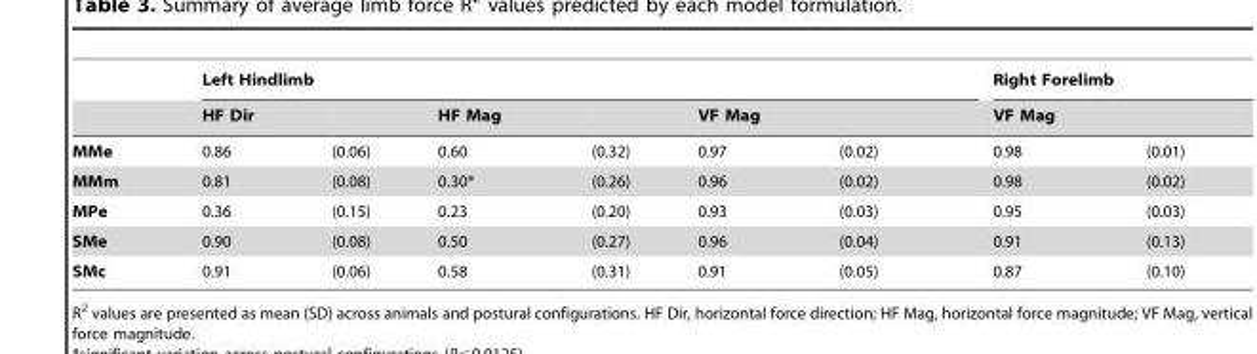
<table><thead><tr><td rowspan="2"></td><td colspan="6">Left Hindlimb</td><td colspan="2">Right Forelimb</td></tr><tr><td>HF Dir</td><td></td><td>HF Mag</td><td></td><td>VF Mag</td><td></td><td>VF Mag</td><td></td></tr></thead><tbody><tr><td>MMe</td><td>0.86</td><td>(0.06)</td><td>0.60</td><td>(0.32)</td><td>0.97</td><td>(0.02)</td><td>0.98</td><td>(0.01)</td></tr><tr><td>MMm</td><td>0.81</td><td>(0.08)</td><td>0.30*</td><td>(0.26)</td><td>0.96</td><td>(0.02)</td><td>0.98</td><td>(0.02)</td></tr><tr><td>MPe</td><td>0.36</td><td>(0.15)</td><td>0.23</td><td>(0.20)</td><td>0.93</td><td>(0.03)</td><td>0.95</td><td>(0.03)</td></tr><tr><td>SMe</td><td>0.90</td><td>(0.08)</td><td>0.50</td><td>(0.27)</td><td>0.96</td><td>(0.04)</td><td>0.91</td><td>(0.13)</td></tr><tr><td>SMc</td><td>0.91</td><td>(0.06)</td><td>0.58</td><td>(0.31)</td><td>0.91</td><td>(0.05)</td><td>0.87</td><td>(0.10)</td></tr></tbody></table>